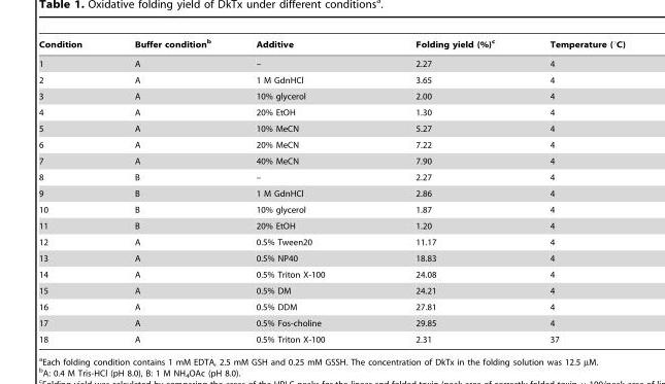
<table><thead><tr><td>Condition</td><td>Buffer condition<sup>b</sup></td><td>Additive</td><td>Folding yield (%)<sup>c</sup></td><td>Temperature (°C)</td></tr></thead><tbody><tr><td>1</td><td>A</td><td>–</td><td>2.27</td><td>4</td></tr><tr><td>2</td><td>A</td><td>1 M GdnHCl</td><td>3.65</td><td>4</td></tr><tr><td>3</td><td>A</td><td>10% glycerol</td><td>2.00</td><td>4</td></tr><tr><td>4</td><td>A</td><td>20% EtOH</td><td>1.30</td><td>4</td></tr><tr><td>5</td><td>A</td><td>10% MeCN</td><td>5.27</td><td>4</td></tr><tr><td>6</td><td>A</td><td>20% MeCN</td><td>7.22</td><td>4</td></tr><tr><td>7</td><td>A</td><td>40% MeCN</td><td>7.90</td><td>4</td></tr><tr><td>8</td><td>B</td><td>–</td><td>2.27</td><td>4</td></tr><tr><td>9</td><td>B</td><td>1 M GdnHCl</td><td>2.86</td><td>4</td></tr><tr><td>10</td><td>B</td><td>10% glycerol</td><td>1.87</td><td>4</td></tr><tr><td>11</td><td>B</td><td>20% EtOH</td><td>1.20</td><td>4</td></tr><tr><td>12</td><td>A</td><td>0.5% Tween20</td><td>11.17</td><td>4</td></tr><tr><td>13</td><td>A</td><td>0.5% NP40</td><td>18.83</td><td>4</td></tr><tr><td>14</td><td>A</td><td>0.5% Triton X-100</td><td>24.08</td><td>4</td></tr><tr><td>15</td><td>A</td><td>0.5% DM</td><td>24.21</td><td>4</td></tr><tr><td>16</td><td>A</td><td>0.5% DDM</td><td>27.81</td><td>4</td></tr><tr><td>17</td><td>A</td><td>0.5% Fos-choline</td><td>29.85</td><td>4</td></tr><tr><td>18</td><td>A</td><td>0.5% Triton X-100</td><td>2.31</td><td>37</td></tr></tbody></table>